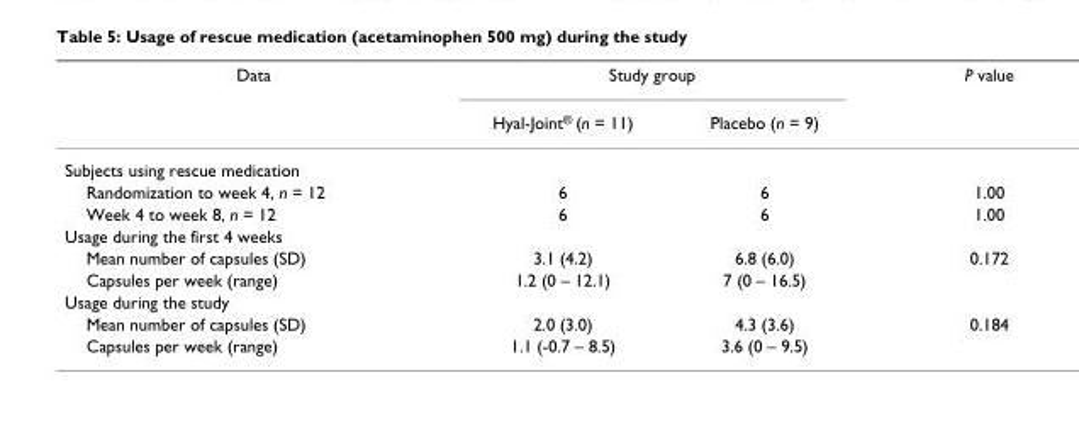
<table><thead><tr><td rowspan="2">Data</td><td colspan="2">Study group</td><td rowspan="2">P value</td></tr><tr><td>Hyal-Joint<sup>®</sup> (n = 11)</td><td>Placebo (n = 9)</td></tr></thead><tbody><tr><td colspan="4">Subjects using rescue medication</td></tr><tr><td>Randomization to week 4, n = 12</td><td>6</td><td>6</td><td>1.00</td></tr><tr><td>Week 4 to week 8, n = 12</td><td>6</td><td>6</td><td>1.00</td></tr><tr><td colspan="4">Usage during the first 4 weeks</td></tr><tr><td>Mean number of capsules (SD)</td><td>3.1 (4.2)</td><td>6.8 (6.0)</td><td>0.172</td></tr><tr><td>Capsules per week (range)</td><td>1.2 (0 – 12.1)</td><td>7 (0 – 16.5)</td><td></td></tr><tr><td colspan="4">Usage during the study</td></tr><tr><td>Mean number of capsules (SD)</td><td>2.0 (3.0)</td><td>4.3 (3.6)</td><td>0.184</td></tr><tr><td>Capsules per week (range)</td><td>1.1 (-0.7 – 8.5)</td><td>3.6 (0 – 9.5)</td><td></td></tr></tbody></table>